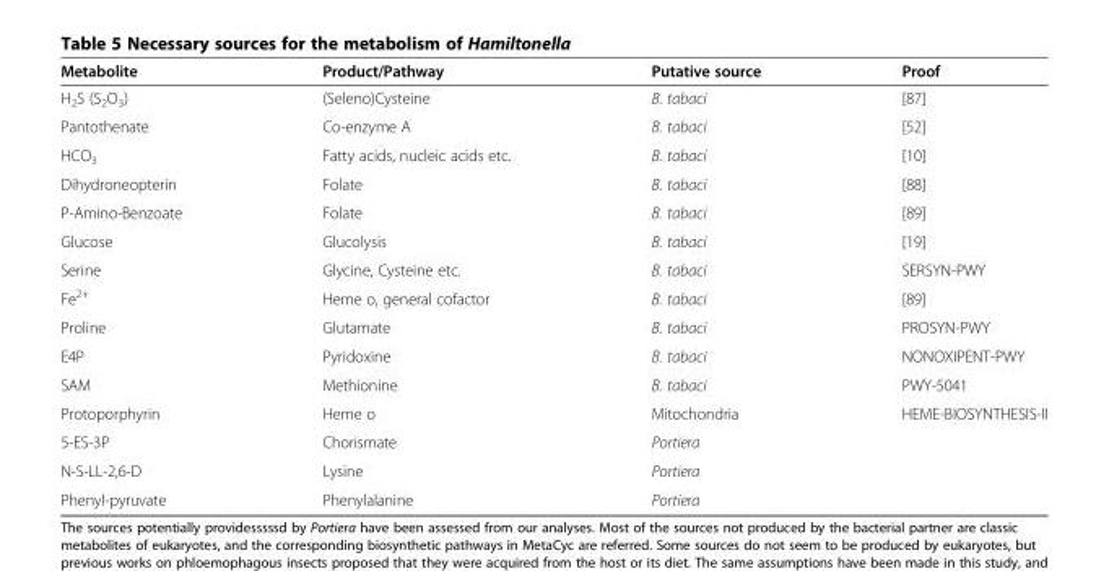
<table><thead><tr><td>Metabolite</td><td>Product/Pathway</td><td>Putative source</td><td>Proof</td></tr></thead><tbody><tr><td>H<sub>2</sub>S (S<sub>2</sub>O<sub>3</sub>)</td><td>(Seleno)Cysteine</td><td>B. tabaci</td><td>[87]</td></tr><tr><td>Pantothenate</td><td>Co-enzyme A</td><td>B. tabaci</td><td>[52]</td></tr><tr><td>HCO<sub>3</sub></td><td>Fatty acids, nucleic acids etc.</td><td>B. tabaci</td><td>[10]</td></tr><tr><td>Dihydroneopterin</td><td>Folate</td><td>B. tabaci</td><td>[88]</td></tr><tr><td>P-Amino-Benzoate</td><td>Folate</td><td>B. tabaci</td><td>[89]</td></tr><tr><td>Glucose</td><td>Glucolysis</td><td>B. tabaci</td><td>[19]</td></tr><tr><td>Serine</td><td>Glycine, Cysteine etc.</td><td>B. tabaci</td><td>SERSYN-PWY</td></tr><tr><td>Fe<sup>2+</sup></td><td>Heme o, general cofactor</td><td>B. tabaci</td><td>[89]</td></tr><tr><td>Proline</td><td>Glutamate</td><td>B. tabaci</td><td>PROSYN-PWY</td></tr><tr><td>E4P</td><td>Pyridoxine</td><td>B. tabaci</td><td>NONOXIPENT-PWY</td></tr><tr><td>SAM</td><td>Methionine</td><td>B. tabaci</td><td>PWY-5041</td></tr><tr><td>Protoporphyrin</td><td>Heme o</td><td>Mitochondria</td><td>HEME-BIOSYNTHESIS-II</td></tr><tr><td>5-ES-3P</td><td>Chorismate</td><td>Portiera</td><td></td></tr><tr><td>N-S-LL-2,6-D</td><td>Lysine</td><td>Portiera</td><td></td></tr><tr><td>Phenyl-pyruvate</td><td>Phenylalanine</td><td>Portiera</td><td></td></tr></tbody></table>